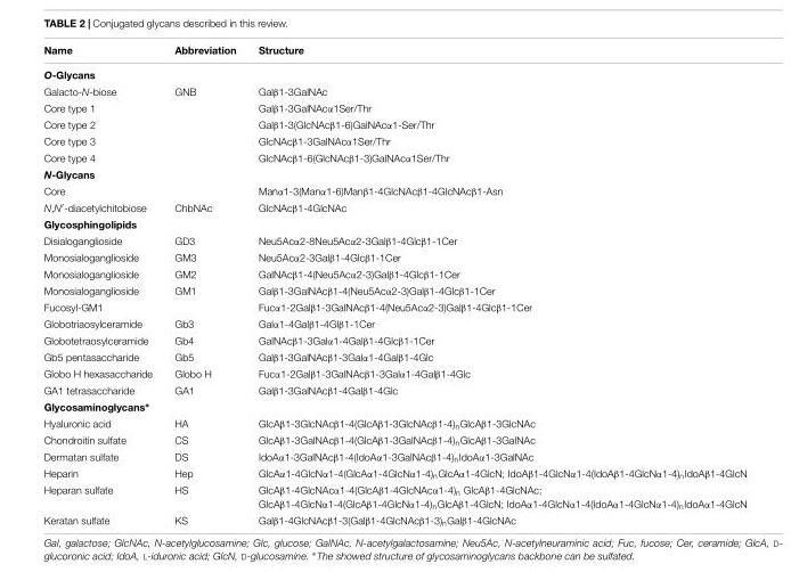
<table><thead><tr><td>Name</td><td>Abbreviation</td><td>Structure</td></tr></thead><tbody><tr><td colspan="3">O-Glycans</td></tr><tr><td>Galacto-N-biose</td><td>GNB</td><td>Galβ1-3GalNAc</td></tr><tr><td>Core type 1</td><td></td><td>Galβ1-3GalNAcα1Ser/Thr</td></tr><tr><td>Core type 2</td><td></td><td>Galβ1-3(GlcNAcβ1-6)GalNAcα1-Ser/Thr</td></tr><tr><td>Core type 3</td><td></td><td>GlcNAcβ1-3GalNAcα1Ser/Thr</td></tr><tr><td>Core type 4</td><td></td><td>GlcNAcβ1-6(GlcNAcβ1-3)GalNAcα1Ser/Thr</td></tr><tr><td colspan="3">N-Glycans</td></tr><tr><td>Core</td><td></td><td>Manα1-3(Manα1-6)Manβ1-4GlcNAcβ1-4GlcNAcβ1-Asn</td></tr><tr><td>N,N′-diacetylchitobiose</td><td>ChbNAc</td><td>GlcNAcβ1-4GlcNAc</td></tr><tr><td colspan="3">Glycosphingolipids</td></tr><tr><td>Disialoganglioside</td><td>GD3</td><td>Neu5Acα2-8Neu5Acα2-3Galβ1-4Glcβ1-1Cer</td></tr><tr><td>Monosialoganglioside</td><td>GM3</td><td>Neu5Acα2-3Galβ1-4Glcβ1-1Cer</td></tr><tr><td>Monosialoganglioside</td><td>GM2</td><td>GalNAcβ1-4(Neu5Acα2-3)Galβ1-4Glcβ1-1Cer</td></tr><tr><td>Monosialoganglioside</td><td>GM1</td><td>Galβ1-3GalNAcβ1-4(Neu5Acα2-3)Galβ1-4Glcβ1-1Cer</td></tr><tr><td>Fucosyl-GM1</td><td></td><td>Fucα1-2Galβ1-3GalNAcβ1-4(Neu5Acα2-3)Galβ1-4Glcβ1-1Cer</td></tr><tr><td>Globotriaosylceramide</td><td>Gb3</td><td>Galα1-4Galβ1-4Glβ1-1Cer</td></tr><tr><td>Globotetraosylceramide</td><td>Gb4</td><td>GalNAcβ1-3Galα1-4Galβ1-4Glcβ1-1Cer</td></tr><tr><td>Gb5 pentasaccharide</td><td>Gb5</td><td>Galβ1-3GalNAcβ1-3Galα1-4Galβ1-4Glc</td></tr><tr><td>Globo H hexasaccharide</td><td>Globo H</td><td>Fucα1-2Galβ1-3GalNAcβ1-3Galα1-4Galβ1-4Glc</td></tr><tr><td>GA1 tetrasaccharide</td><td>GA1</td><td>Galβ1-3GalNAcβ1-4Galβ1-4Glc</td></tr><tr><td colspan="3">Glycosaminoglycans∗</td></tr><tr><td>Hyaluronic acid</td><td>HA</td><td>GlcAβ1-3GlcNAcβ1-4(GlcAβ1-3GlcNAcβ1-4)<sub>n</sub>GlcAβ1-3GlcNAc</td></tr><tr><td>Chondroitin sulfate</td><td>CS</td><td>GlcAβ1-3GalNAcβ1-4(GlcAβ1-3GalNAcβ1-4)<sub>n</sub>GlcAβ1-3GalNAc</td></tr><tr><td>Dermatan sulfate</td><td>DS</td><td>IdoAα1-3GalNAcβ1-4(IdoAα1-3GalNAcβ1-4)<sub>n</sub>IdoAα1-3GalNAc</td></tr><tr><td>Heparin</td><td>Hep</td><td>GlcAα1-4GlcNα1-4(GlcAα1-4GlcNα1-4)<sub>n</sub>GlcAα1-4GlcN; IdoAβ1-4GlcNα1-4(IdoAβ1-4GlcNα1-4)<sub>n</sub>IdoAβ1-4GlcN</td></tr><tr><td>Heparan sulfate</td><td>HS</td><td>GlcAβ1-4GlcNAcα1-4(GlcAβ1-4GlcNAcα1-4)<sub>n</sub> GlcAβ1-4GlcNAc; GlcAβ1-4GlcNα1-4(GlcAβ1-4GlcNα1-4)<sub>n</sub>GlcAβ1-4GlcN; IdoAα1-4GlcNα1-4(IdoAα1-4GlcNα1-4)<sub>n</sub>IdoAα1-4GlcN</td></tr><tr><td>Keratan sulfate</td><td>KS</td><td>Galβ1-4GlcNAcβ1-3(Galβ1-4GlcNAcβ1-3)<sub>n</sub>Galβ1-4GlcNAc</td></tr></tbody></table>